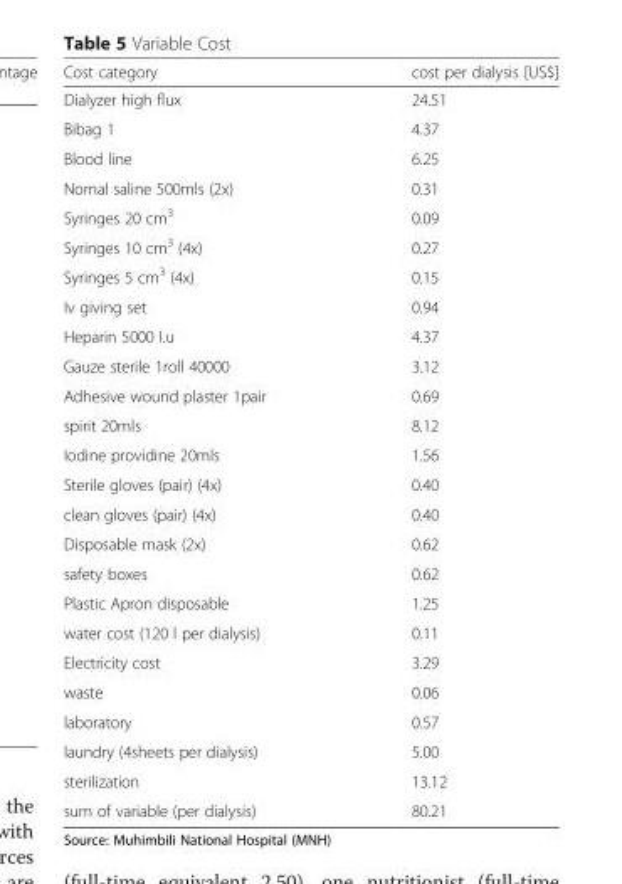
<table><thead><tr><td>Cost category</td><td>cost per dialysis [US$]</td></tr></thead><tbody><tr><td>Dialyzer high flux</td><td>24.51</td></tr><tr><td>Bibag 1</td><td>4.37</td></tr><tr><td>Blood line</td><td>6.25</td></tr><tr><td>Nornal saline 500mls (2x)</td><td>0.31</td></tr><tr><td>Syringes 20 cm<sup>3</sup></td><td>0.09</td></tr><tr><td>Syringes 10 cm<sup>3</sup> (4x)</td><td>0.27</td></tr><tr><td>Syringes 5 cm<sup>3</sup> (4x)</td><td>0.15</td></tr><tr><td>Iv giving set</td><td>0.94</td></tr><tr><td>Heparin 5000 I.u</td><td>4.37</td></tr><tr><td>Gauze sterile 1roll 40000</td><td>3.12</td></tr><tr><td>Adhesive wound plaster 1pair</td><td>0.69</td></tr><tr><td>spirit 20mls</td><td>8.12</td></tr><tr><td>Iodine providine 20mls</td><td>1.56</td></tr><tr><td>Sterile gloves (pair) (4x)</td><td>0.40</td></tr><tr><td>clean gloves (pair) (4x)</td><td>0.40</td></tr><tr><td>Disposable mask (2x)</td><td>0.62</td></tr><tr><td>safety boxes</td><td>0.62</td></tr><tr><td>Plastic Apron disposable</td><td>1.25</td></tr><tr><td>water cost (120 l per dialysis)</td><td>0.11</td></tr><tr><td>Electricity cost</td><td>3.29</td></tr><tr><td>waste</td><td>0.06</td></tr><tr><td>laboratory</td><td>0.57</td></tr><tr><td>laundry (4sheets per dialysis)</td><td>5.00</td></tr><tr><td>sterilization</td><td>13.12</td></tr><tr><td>sum of variable (per dialysis)</td><td>80.21</td></tr></tbody></table>